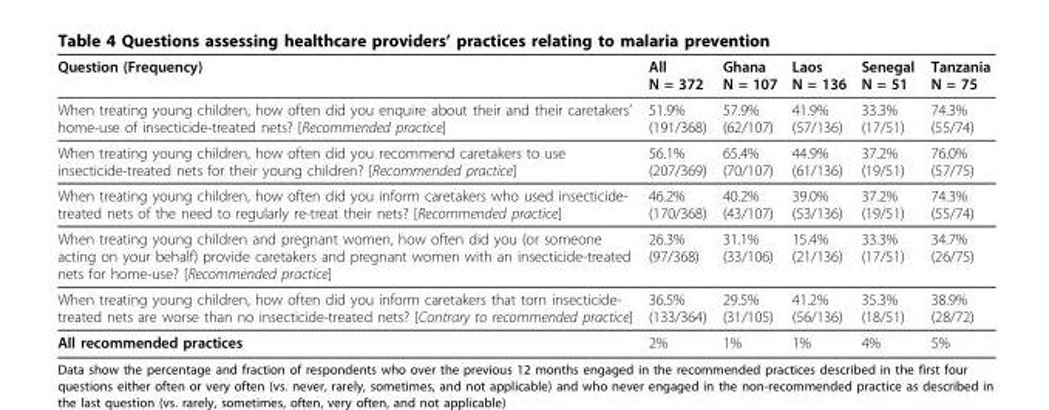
<table><thead><tr><td>Question (Frequency)</td><td>All N = 372</td><td>Ghana N = 107</td><td>Laos N = 136</td><td>Senegal N = 51</td><td>Tanzania N = 75</td></tr></thead><tbody><tr><td>When treating young children, how often did you enquire about their and their caretakers’ home-use of insecticide-treated nets? [Recommended practice]</td><td>51.9% (191/368)</td><td>57.9% (62/107)</td><td>41.9% (57/136)</td><td>33.3% (17/51)</td><td>74.3% (55/74)</td></tr><tr><td>When treating young children, how often did you recommend caretakers to use insecticide-treated nets for their young children? [Recommended practice]</td><td>56.1% (207/369)</td><td>65.4% (70/107)</td><td>44.9% (61/136)</td><td>37.2% (19/51)</td><td>76.0% (57/75)</td></tr><tr><td>When treating young children, how often did you inform caretakers who used insecticide- treated nets of the need to regularly re-treat their nets? [Recommended practice]</td><td>46.2% (170/368)</td><td>40.2% (43/107)</td><td>39.0% (53/136)</td><td>37.2% (19/51)</td><td>74.3% (55/74)</td></tr><tr><td>When treating young children and pregnant women, how often did you (or someone acting on your behalf) provide caretakers and pregnant women with an insecticide-treated nets for home-use? [Recommended practice]</td><td>26.3% (97/368)</td><td>31.1% (33/106)</td><td>15.4% (21/136)</td><td>33.3% (17/51)</td><td>34.7% (26/75)</td></tr><tr><td>When treating young children, how often did you inform caretakers that torn insecticide- treated nets are worse than no insecticide-treated nets? [Contrary to recommended practice]</td><td>36.5% (133/364)</td><td>29.5% (31/105)</td><td>41.2% (56/136)</td><td>35.3% (18/51)</td><td>38.9% (28/72)</td></tr><tr><td>All recommended practices</td><td>2%</td><td>1%</td><td>1%</td><td>4%</td><td>5%</td></tr></tbody></table>